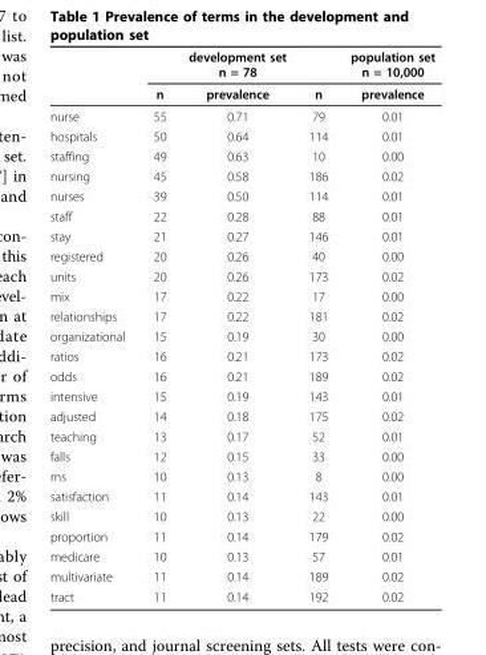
<table><thead><tr><td rowspan="2"></td><td rowspan="2">n</td><td rowspan="2">development set n = 78 prevalence</td><td rowspan="2">n</td><td rowspan="2">population set n = 10,000 prevalence</td></tr><tr></tr></thead><tbody><tr><td>nurse</td><td>55</td><td>0.71</td><td>79</td><td>0.01</td></tr><tr><td>hospitals</td><td>50</td><td>0.64</td><td>114</td><td>0.01</td></tr><tr><td>staffing</td><td>49</td><td>0.63</td><td>10</td><td>0.00</td></tr><tr><td>nursing</td><td>45</td><td>0.58</td><td>186</td><td>0.02</td></tr><tr><td>nurses</td><td>39</td><td>0.50</td><td>114</td><td>0.01</td></tr><tr><td>staff</td><td>22</td><td>0.28</td><td>88</td><td>0.01</td></tr><tr><td>stay</td><td>21</td><td>0.27</td><td>146</td><td>0.01</td></tr><tr><td>registered</td><td>20</td><td>0.26</td><td>40</td><td>0.00</td></tr><tr><td>units</td><td>20</td><td>0.26</td><td>173</td><td>0.02</td></tr><tr><td>mix</td><td>17</td><td>0.22</td><td>17</td><td>0.00</td></tr><tr><td>relationships</td><td>17</td><td>0.22</td><td>181</td><td>0.02</td></tr><tr><td>organizational</td><td>15</td><td>0.19</td><td>30</td><td>0.00</td></tr><tr><td>ratios</td><td>16</td><td>0.21</td><td>173</td><td>0.02</td></tr><tr><td>odds</td><td>16</td><td>0.21</td><td>189</td><td>0.02</td></tr><tr><td>intensive</td><td>15</td><td>0.19</td><td>143</td><td>0.01</td></tr><tr><td>adjusted</td><td>14</td><td>0.18</td><td>175</td><td>0.02</td></tr><tr><td>teaching</td><td>13</td><td>0.17</td><td>52</td><td>0.01</td></tr><tr><td>falls</td><td>12</td><td>0.15</td><td>33</td><td>0.00</td></tr><tr><td>rns</td><td>10</td><td>0.13</td><td>8</td><td>0.00</td></tr><tr><td>satisfaction</td><td>11</td><td>0.14</td><td>143</td><td>0.01</td></tr><tr><td>skill</td><td>10</td><td>0.13</td><td>22</td><td>0.00</td></tr><tr><td>proportion</td><td>11</td><td>0.14</td><td>179</td><td>0.02</td></tr><tr><td>medicare</td><td>10</td><td>0.13</td><td>57</td><td>0.01</td></tr><tr><td>multivariate</td><td>11</td><td>0.14</td><td>189</td><td>0.02</td></tr><tr><td>tract</td><td>11</td><td>0.14</td><td>192</td><td>0.02</td></tr></tbody></table>